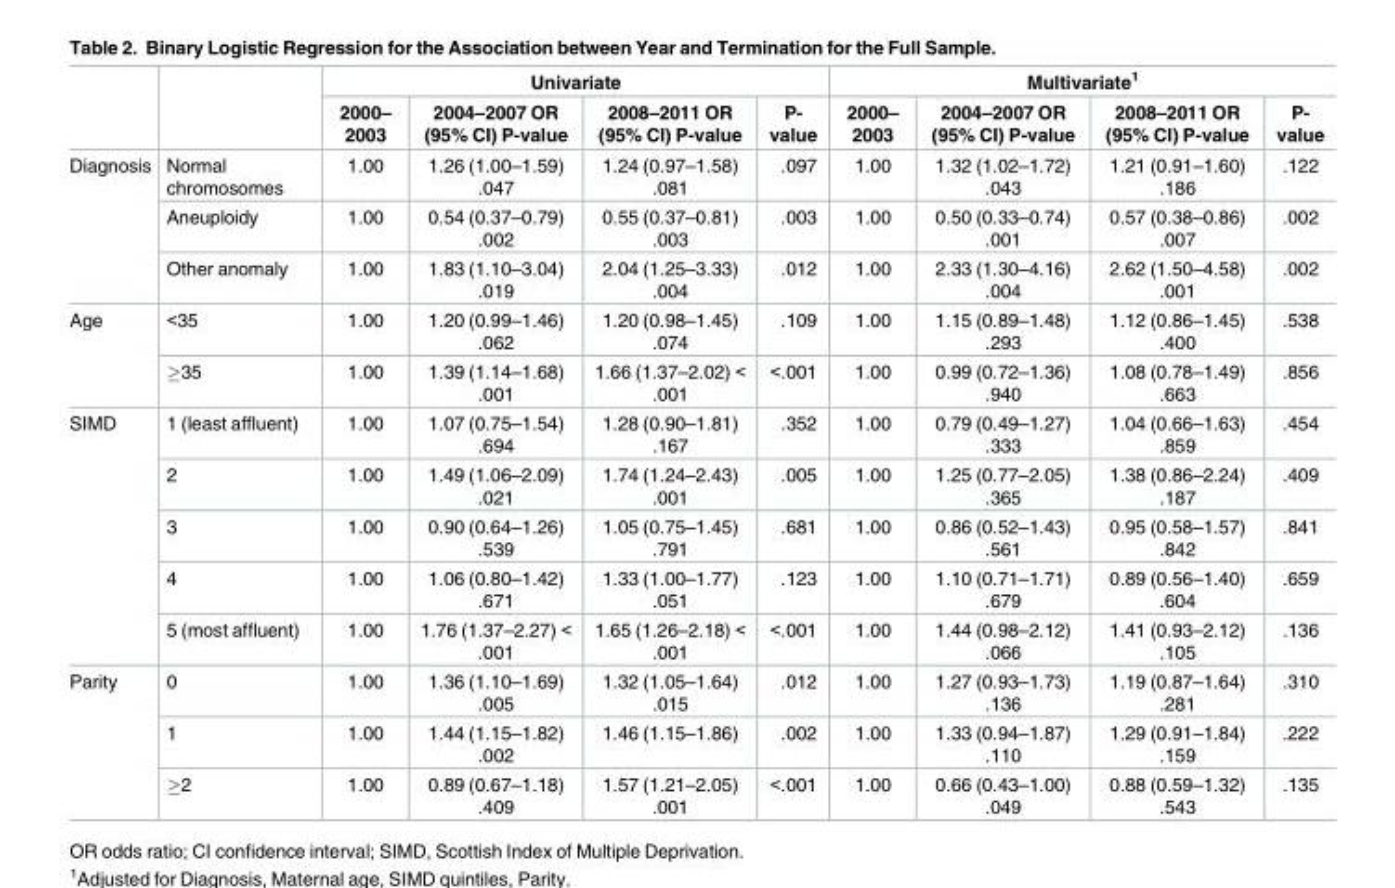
<table><thead><tr><td rowspan="2"></td><td rowspan="2"></td><td colspan="4">Univariate</td><td colspan="4">Multivariate<sup>1</sup></td></tr><tr><td>2000– 2003</td><td>2004–2007 OR (95% CI) P-value</td><td>2008–2011 OR (95% CI) P-value</td><td>P- value</td><td>2000– 2003</td><td>2004–2007 OR (95% CI) P-value</td><td>2008–2011 OR (95% CI) P-value</td><td>P- value</td></tr></thead><tbody><tr><td rowspan="3">Diagnosis</td><td>Normal chromosomes</td><td>1.00</td><td>1.26 (1.00–1.59) .047</td><td>1.24 (0.97–1.58) .081</td><td>.097</td><td>1.00</td><td>1.32 (1.02–1.72) .043</td><td>1.21 (0.91–1.60) .186</td><td>.122</td></tr><tr><td>Aneuploidy</td><td>1.00</td><td>0.54 (0.37–0.79) .002</td><td>0.55 (0.37–0.81) .003</td><td>.003</td><td>1.00</td><td>0.50 (0.33–0.74) .001</td><td>0.57 (0.38–0.86) .007</td><td>.002</td></tr><tr><td>Other anomaly</td><td>1.00</td><td>1.83 (1.10–3.04) .019</td><td>2.04 (1.25–3.33) .004</td><td>.012</td><td>1.00</td><td>2.33 (1.30–4.16) .004</td><td>2.62 (1.50–4.58) .001</td><td>.002</td></tr><tr><td rowspan="2">Age</td><td>&lt;35</td><td>1.00</td><td>1.20 (0.99–1.46) .062</td><td>1.20 (0.98–1.45) .074</td><td>.109</td><td>1.00</td><td>1.15 (0.89–1.48) .293</td><td>1.12 (0.86–1.45) .400</td><td>.538</td></tr><tr><td>≥35</td><td>1.00</td><td>1.39 (1.14–1.68) .001</td><td>1.66 (1.37–2.02) &lt; .001</td><td>&lt;.001</td><td>1.00</td><td>0.99 (0.72–1.36) .940</td><td>1.08 (0.78–1.49) .663</td><td>.856</td></tr><tr><td rowspan="5">SIMD</td><td>1 (least affluent)</td><td>1.00</td><td>1.07 (0.75–1.54) .694</td><td>1.28 (0.90–1.81) .167</td><td>.352</td><td>1.00</td><td>0.79 (0.49–1.27) .333</td><td>1.04 (0.66–1.63) .859</td><td>.454</td></tr><tr><td>2</td><td>1.00</td><td>1.49 (1.06–2.09) .021</td><td>1.74 (1.24–2.43) .001</td><td>.005</td><td>1.00</td><td>1.25 (0.77–2.05) .365</td><td>1.38 (0.86–2.24) .187</td><td>.409</td></tr><tr><td>3</td><td>1.00</td><td>0.90 (0.64–1.26) .539</td><td>1.05 (0.75–1.45) .791</td><td>.681</td><td>1.00</td><td>0.86 (0.52–1.43) .561</td><td>0.95 (0.58–1.57) .842</td><td>.841</td></tr><tr><td>4</td><td>1.00</td><td>1.06 (0.80–1.42) .671</td><td>1.33 (1.00–1.77) .051</td><td>.123</td><td>1.00</td><td>1.10 (0.71–1.71) .679</td><td>0.89 (0.56–1.40) .604</td><td>.659</td></tr><tr><td>5 (most affluent)</td><td>1.00</td><td>1.76 (1.37–2.27) &lt; .001</td><td>1.65 (1.26–2.18) &lt; .001</td><td>&lt;.001</td><td>1.00</td><td>1.44 (0.98–2.12) .066</td><td>1.41 (0.93–2.12) .105</td><td>.136</td></tr><tr><td rowspan="3">Parity</td><td>0</td><td>1.00</td><td>1.36 (1.10–1.69) .005</td><td>1.32 (1.05–1.64) .015</td><td>.012</td><td>1.00</td><td>1.27 (0.93–1.73) .136</td><td>1.19 (0.87–1.64) .281</td><td>.310</td></tr><tr><td>1</td><td>1.00</td><td>1.44 (1.15–1.82) .002</td><td>1.46 (1.15–1.86)</td><td>.002</td><td>1.00</td><td>1.33 (0.94–1.87) .110</td><td>1.29 (0.91–1.84) .159</td><td>.222</td></tr><tr><td>≥2</td><td>1.00</td><td>0.89 (0.67–1.18) .409</td><td>1.57 (1.21–2.05) .001</td><td>&lt;.001</td><td>1.00</td><td>0.66 (0.43–1.00) .049</td><td>0.88 (0.59–1.32) .543</td><td>.135</td></tr></tbody></table>